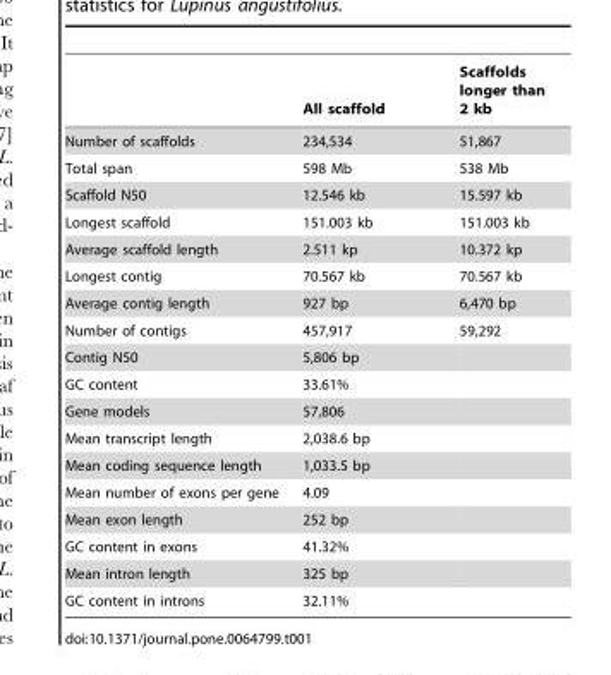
<table><thead><tr><td></td><td>All scaffold</td><td>Scaffolds longer than 2 kb</td></tr></thead><tbody><tr><td>Number of scaffolds</td><td>234,534</td><td>51,867</td></tr><tr><td>Total span</td><td>598 Mb</td><td>538 Mb</td></tr><tr><td>Scaffold N50</td><td>12.546 kb</td><td>15.597 kb</td></tr><tr><td>Longest scaffold</td><td>151.003 kb</td><td>151.003 kb</td></tr><tr><td>Average scaffold length</td><td>2.511 kp</td><td>10.372 kp</td></tr><tr><td>Longest contig</td><td>70.567 kb</td><td>70.567 kb</td></tr><tr><td>Average contig length</td><td>927 bp</td><td>6,470 bp</td></tr><tr><td>Number of contigs</td><td>457,917</td><td>59,292</td></tr><tr><td>Contig N50</td><td>5,806 bp</td><td></td></tr><tr><td>GC content</td><td>33.61%</td><td></td></tr><tr><td>Gene models</td><td>57,806</td><td></td></tr><tr><td>Mean transcript length</td><td>2,038.6 bp</td><td></td></tr><tr><td>Mean coding sequence length</td><td>1,033.5 bp</td><td></td></tr><tr><td>Mean number of exons per gene</td><td>4.09</td><td></td></tr><tr><td>Mean exon length</td><td>252 bp</td><td></td></tr><tr><td>GC content in exons</td><td>41.32%</td><td></td></tr><tr><td>Mean intron length</td><td>325 bp</td><td></td></tr><tr><td>GC content in introns</td><td>32.11%</td><td></td></tr></tbody></table>